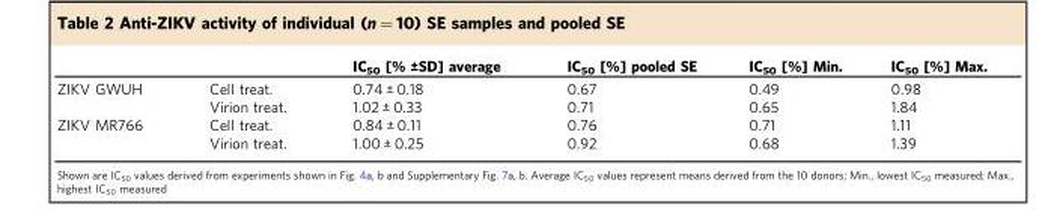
<table><thead><tr><td></td><td></td><td>IC<sub>50</sub> [% ±SD] average</td><td>IC<sub>50</sub> [%] pooled SE</td><td>IC<sub>50</sub> [%] Min.</td><td>IC<sub>50</sub> [%] Max.</td></tr></thead><tbody><tr><td rowspan="2">ZIKV GWUH</td><td>Cell treat.</td><td>0.74 ± 0.18</td><td>0.67</td><td>0.49</td><td>0.98</td></tr><tr><td>Virion treat.</td><td>1.02 ± 0.33</td><td>0.71</td><td>0.65</td><td>1.84</td></tr><tr><td rowspan="2">ZIKV MR766</td><td>Cell treat.</td><td>0.84 ± 0.11</td><td>0.76</td><td>0.71</td><td>1.11</td></tr><tr><td>Virion treat.</td><td>1.00 ± 0.25</td><td>0.92</td><td>0.68</td><td>1.39</td></tr></tbody></table>